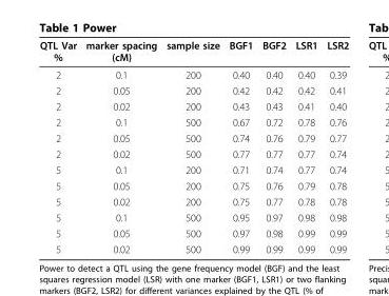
<table><thead><tr><td>QTL Var %</td><td>marker spacing (cM)</td><td>sample size</td><td>BGF1</td><td>BGF2</td><td>LSR1</td><td>LSR2</td></tr></thead><tbody><tr><td>2</td><td>0.1</td><td>200</td><td>0.40</td><td>0.40</td><td>0.40</td><td>0.39</td></tr><tr><td>2</td><td>0.05</td><td>200</td><td>0.42</td><td>0.42</td><td>0.42</td><td>0.41</td></tr><tr><td>2</td><td>0.02</td><td>200</td><td>0.43</td><td>0.43</td><td>0.41</td><td>0.40</td></tr><tr><td>2</td><td>0.1</td><td>500</td><td>0.67</td><td>0.72</td><td>0.78</td><td>0.76</td></tr><tr><td>2</td><td>0.05</td><td>500</td><td>0.74</td><td>0.76</td><td>0.79</td><td>0.77</td></tr><tr><td>2</td><td>0.02</td><td>500</td><td>0.77</td><td>0.77</td><td>0.77</td><td>0.74</td></tr><tr><td>5</td><td>0.1</td><td>200</td><td>0.71</td><td>0.74</td><td>0.77</td><td>0.74</td></tr><tr><td>5</td><td>0.05</td><td>200</td><td>0.75</td><td>0.76</td><td>0.79</td><td>0.78</td></tr><tr><td>5</td><td>0.02</td><td>200</td><td>0.75</td><td>0.77</td><td>0.78</td><td>0.78</td></tr><tr><td>5</td><td>0.1</td><td>500</td><td>0.95</td><td>0.97</td><td>0.98</td><td>0.98</td></tr><tr><td>5</td><td>0.05</td><td>500</td><td>0.97</td><td>0.98</td><td>0.99</td><td>0.99</td></tr><tr><td>5</td><td>0.02</td><td>500</td><td>0.99</td><td>0.99</td><td>0.99</td><td>0.99</td></tr></tbody></table>